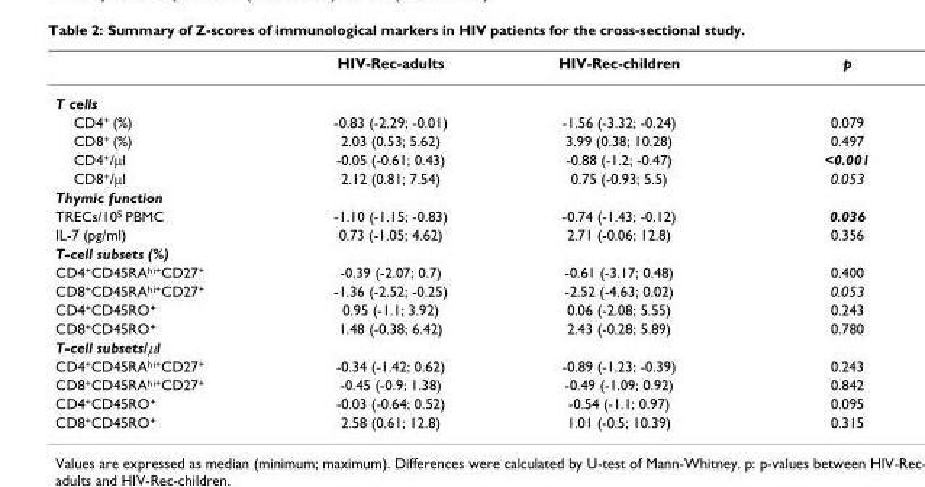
<table><thead><tr><td></td><td>HIV-Rec-adults</td><td>HIV-Rec-children</td><td>p</td></tr></thead><tbody><tr><td colspan="4">T cells</td></tr><tr><td>CD4<sup>+</sup> (%)</td><td>-0.83 (-2.29; -0.01)</td><td>-1.56 (-3.32; -0.24)</td><td>0.079</td></tr><tr><td>CD8<sup>+</sup> (%)</td><td>2.03 (0.53; 5.62)</td><td>3.99 (0.38; 10.28)</td><td>0.497</td></tr><tr><td>CD4<sup>+</sup>/µl</td><td>-0.05 (-0.61; 0.43)</td><td>-0.88 (-1.2; -0.47)</td><td>&lt;0.001</td></tr><tr><td>CD8<sup>+</sup>/µl</td><td>2.12 (0.81; 7.54)</td><td>0.75 (-0.93; 5.5)</td><td>0.053</td></tr><tr><td colspan="4">Thymic function</td></tr><tr><td>TRECs/10<sup>5</sup> PBMC</td><td>-1.10 (-1.15; -0.83)</td><td>-0.74 (-1.43; -0.12)</td><td>0.036</td></tr><tr><td>IL-7 (pg/ml)</td><td>0.73 (-1.05; 4.62)</td><td>2.71 (-0.06; 12.8)</td><td>0.356</td></tr><tr><td colspan="4">T-cell subsets (%)</td></tr><tr><td>CD4<sup>+</sup>CD45RA<sup>hi+</sup>CD27<sup>+</sup></td><td>-0.39 (-2.07; 0.7)</td><td>-0.61 (-3.17; 0.48)</td><td>0.400</td></tr><tr><td>CD8<sup>+</sup>CD45RA<sup>hi+</sup>CD27<sup>+</sup></td><td>-1.36 (-2.52; -0.25)</td><td>-2.52 (-4.63; 0.02)</td><td>0.053</td></tr><tr><td>CD4<sup>+</sup>CD45RO<sup>+</sup></td><td>0.95 (-1.1; 3.92)</td><td>0.06 (-2.08; 5.55)</td><td>0.243</td></tr><tr><td>CD8<sup>+</sup>CD45RO<sup>+</sup></td><td>1.48 (-0.38; 6.42)</td><td>2.43 (-0.28; 5.89)</td><td>0.780</td></tr><tr><td colspan="4">T-cell subsets/µl</td></tr><tr><td>CD4<sup>+</sup>CD45RA<sup>hi+</sup>CD27<sup>+</sup></td><td>-0.34 (-1.42; 0.62)</td><td>-0.89 (-1.23; -0.39)</td><td>0.243</td></tr><tr><td>CD8<sup>+</sup>CD45RA<sup>hi+</sup>CD27<sup>+</sup></td><td>-0.45 (-0.9; 1.38)</td><td>-0.49 (-1.09; 0.92)</td><td>0.842</td></tr><tr><td>CD4<sup>+</sup>CD45RO<sup>+</sup></td><td>-0.03 (-0.64; 0.52)</td><td>-0.54 (-1.1; 0.97)</td><td>0.095</td></tr><tr><td>CD8<sup>+</sup>CD45RO<sup>+</sup></td><td>2.58 (0.61; 12.8)</td><td>1.01 (-0.5; 10.39)</td><td>0.315</td></tr></tbody></table>